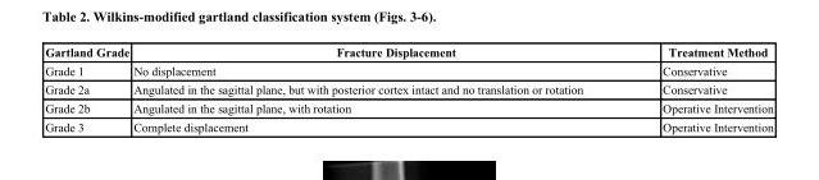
<table><thead><tr><td>Gartland Grade</td><td>Fracture Displacement</td><td>Treatment Method</td></tr></thead><tbody><tr><td>Grade 1</td><td>No displacement</td><td>Conservative</td></tr><tr><td>Grade 2a</td><td>Angulated in the sagittal plane, but with posterior cortex intact and no translation or rotation</td><td>Conservative</td></tr><tr><td>Grade 2b</td><td>Angulated in the sagittal plane, with rotation</td><td>Operative Intervention</td></tr><tr><td>Grade 3</td><td>Complete displacement</td><td>Operative Intervention</td></tr></tbody></table>